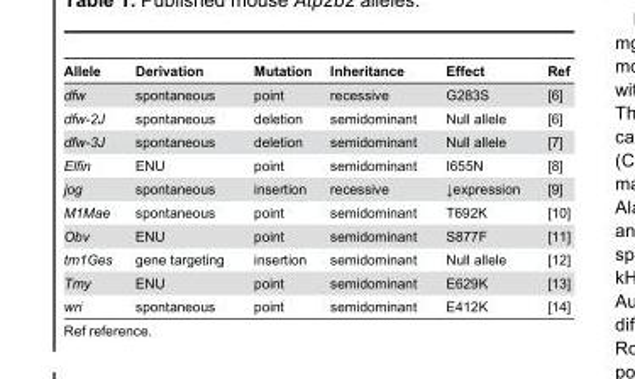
<table><thead><tr><td>Allele</td><td>Derivation</td><td>Mutation</td><td>Inheritance</td><td>Effect</td><td>Ref</td></tr></thead><tbody><tr><td>dfw</td><td>spontaneous</td><td>point</td><td>recessive</td><td>G283S</td><td>[6]</td></tr><tr><td>dfw-2J</td><td>spontaneous</td><td>deletion</td><td>semidominant</td><td>Null allele</td><td>[6]</td></tr><tr><td>dfw-3J</td><td>spontaneous</td><td>deletion</td><td>semidominant</td><td>Null allele</td><td>[7]</td></tr><tr><td>Elfin</td><td>ENU</td><td>point</td><td>semidominant</td><td>I655N</td><td>[8]</td></tr><tr><td>jog</td><td>spontaneous</td><td>insertion</td><td>recessive</td><td>↓expression</td><td>[9]</td></tr><tr><td>M1Mae</td><td>spontaneous</td><td>point</td><td>semidominant</td><td>T692K</td><td>[10]</td></tr><tr><td>Obv</td><td>ENU</td><td>point</td><td>semidominant</td><td>S877F</td><td>[11]</td></tr><tr><td>tm1Ges</td><td>gene targeting</td><td>insertion</td><td>semidominant</td><td>Null allele</td><td>[12]</td></tr><tr><td>Tmy</td><td>ENU</td><td>point</td><td>semidominant</td><td>E629K</td><td>[13]</td></tr><tr><td>wri</td><td>spontaneous</td><td>point</td><td>semidominant</td><td>E412K</td><td>[14]</td></tr></tbody></table>